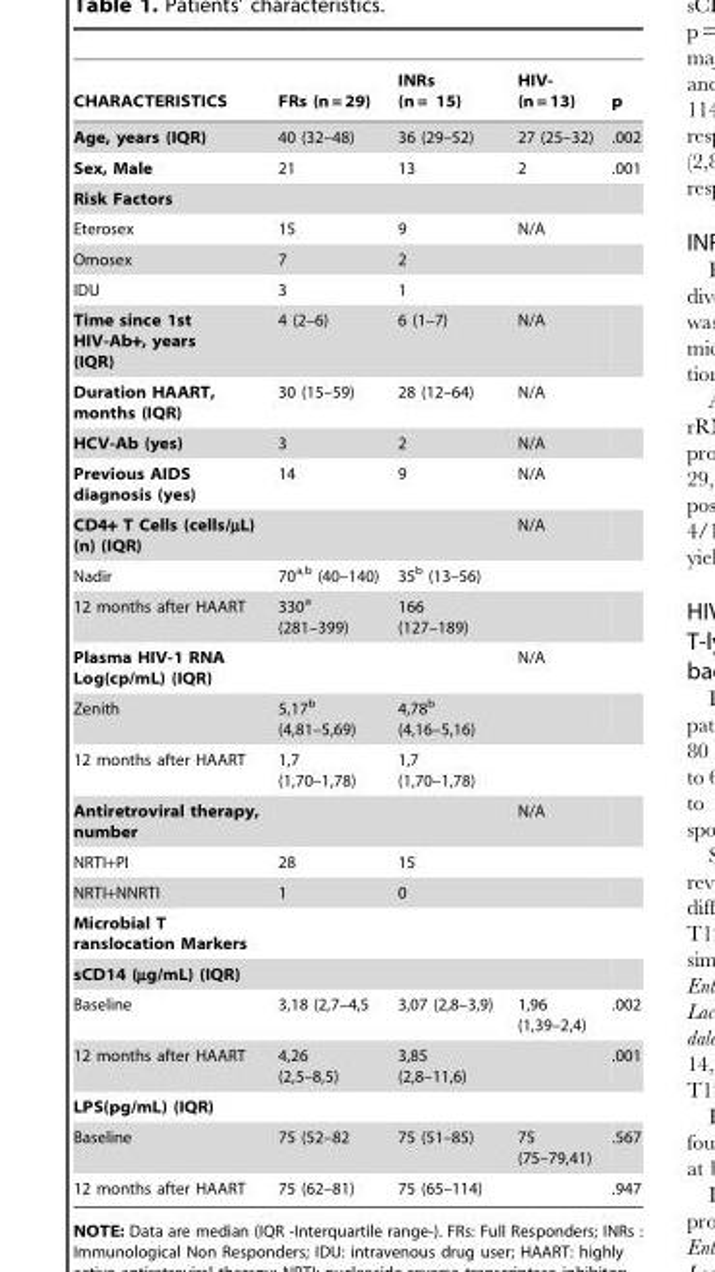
<table><thead><tr><td>CHARACTERISTICS</td><td>FRs (n = 29)</td><td>INRs (n = 15)</td><td>HIV- (n = 13)</td><td>p</td></tr></thead><tbody><tr><td>Age, years (IQR)</td><td>40 (32–48)</td><td>36 (29–52)</td><td>27 (25–32)</td><td>.002</td></tr><tr><td>Sex, Male</td><td>21</td><td>13</td><td>2</td><td>.001</td></tr><tr><td colspan="5">Risk Factors</td></tr><tr><td>Eterosex</td><td>15</td><td>9</td><td>N/A</td><td></td></tr><tr><td>Omosex</td><td>7</td><td>2</td><td></td><td></td></tr><tr><td>IDU</td><td>3</td><td>1</td><td></td><td></td></tr><tr><td>Time since 1st HIV-Ab+, years (IQR)</td><td>4 (2–6)</td><td>6 (1–7)</td><td>N/A</td><td></td></tr><tr><td>Duration HAART, months (IQR)</td><td>30 (15–59)</td><td>28 (12–64)</td><td>N/A</td><td></td></tr><tr><td>HCV-Ab (yes)</td><td>3</td><td>2</td><td>N/A</td><td></td></tr><tr><td>Previous AIDS diagnosis (yes)</td><td>14</td><td>9</td><td>N/A</td><td></td></tr><tr><td>CD4+ T Cells (cells/µL) (n) (IQR)</td><td></td><td></td><td>N/A</td><td></td></tr><tr><td>Nadir</td><td>70a,b (40–140)</td><td>35<sup>b</sup> (13–56)</td><td></td><td></td></tr><tr><td>12 months after HAART</td><td>330<sup>a</sup> (281–399)</td><td>166 (127–189)</td><td></td><td></td></tr><tr><td>Plasma HIV-1 RNA Log(cp/mL) (IQR)</td><td></td><td></td><td>N/A</td><td></td></tr><tr><td>Zenith</td><td>5,17<sup>b</sup> (4,81–5,69)</td><td>4,78<sup>b</sup> (4,16–5,16)</td><td></td><td></td></tr><tr><td>12 months after HAART</td><td>1,7 (1,70–1,78)</td><td>1,7 (1,70–1,78)</td><td></td><td></td></tr><tr><td>Antiretroviral therapy, number</td><td></td><td></td><td>N/A</td><td></td></tr><tr><td>NRTI+PI</td><td>28</td><td>15</td><td></td><td></td></tr><tr><td>NRTI+NNRTI</td><td>1</td><td>0</td><td></td><td></td></tr><tr><td colspan="5">Microbial T ranslocation Markers</td></tr><tr><td colspan="5">sCD14 (µg/mL) (IQR)</td></tr><tr><td>Baseline</td><td>3,18 (2,7–4,5</td><td>3,07 (2,8–3,9)</td><td>1,96 (1,39–2,4)</td><td>.002</td></tr><tr><td>12 months after HAART</td><td>4,26 (2,5–8,5)</td><td>3,85 (2,8–11,6)</td><td></td><td>.001</td></tr><tr><td colspan="5">LPS(pg/mL) (IQR)</td></tr><tr><td>Baseline</td><td>75 (52–82</td><td>75 (51–85)</td><td>75 (75–79,41)</td><td>.567</td></tr><tr><td>12 months after HAART</td><td>75 (62–81)</td><td>75 (65–114)</td><td></td><td>.947</td></tr></tbody></table>